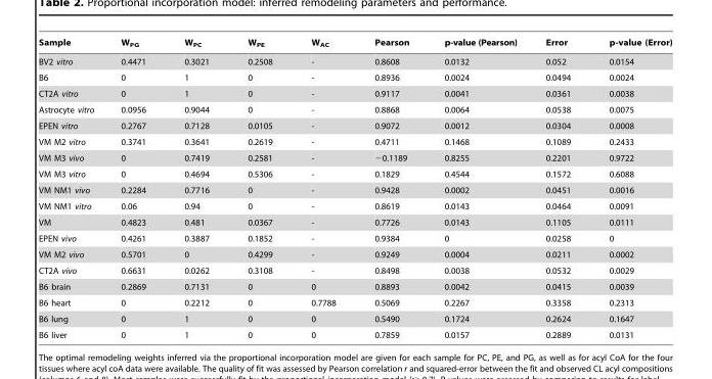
<table><thead><tr><td>Sample</td><td>W<sub>PG</sub></td><td>W<sub>PC</sub></td><td>W<sub>PE</sub></td><td>W<sub>AC</sub></td><td>Pearson</td><td>p-value (Pearson)</td><td>Error</td><td>p-value (Error)</td></tr></thead><tbody><tr><td>BV2 vitro</td><td>0.4471</td><td>0.3021</td><td>0.2508</td><td>-</td><td>0.8608</td><td>0.0132</td><td>0.052</td><td>0.0154</td></tr><tr><td>B6</td><td>0</td><td>1</td><td>0</td><td>-</td><td>0.8936</td><td>0.0024</td><td>0.0494</td><td>0.0024</td></tr><tr><td>CT2A vitro</td><td>0</td><td>1</td><td>0</td><td>-</td><td>0.9117</td><td>0.0041</td><td>0.0361</td><td>0.0038</td></tr><tr><td>Astrocyte vitro</td><td>0.0956</td><td>0.9044</td><td>0</td><td>-</td><td>0.8868</td><td>0.0064</td><td>0.0538</td><td>0.0075</td></tr><tr><td>EPEN vitro</td><td>0.2767</td><td>0.7128</td><td>0.0105</td><td>-</td><td>0.9072</td><td>0.0012</td><td>0.0304</td><td>0.0008</td></tr><tr><td>VM M2 vitro</td><td>0.3741</td><td>0.3641</td><td>0.2619</td><td>-</td><td>0.4711</td><td>0.1468</td><td>0.1089</td><td>0.2433</td></tr><tr><td>VM M3 vivo</td><td>0</td><td>0.7419</td><td>0.2581</td><td>-</td><td>−0.1189</td><td>0.8255</td><td>0.2201</td><td>0.9722</td></tr><tr><td>VM M3 vitro</td><td>0</td><td>0.4694</td><td>0.5306</td><td>-</td><td>0.1829</td><td>0.4544</td><td>0.1572</td><td>0.6088</td></tr><tr><td>VM NM1 vivo</td><td>0.2284</td><td>0.7716</td><td>0</td><td>-</td><td>0.9428</td><td>0.0002</td><td>0.0451</td><td>0.0016</td></tr><tr><td>VM NM1 vitro</td><td>0.06</td><td>0.94</td><td>0</td><td>-</td><td>0.8619</td><td>0.0143</td><td>0.0464</td><td>0.0091</td></tr><tr><td>VM</td><td>0.4823</td><td>0.481</td><td>0.0367</td><td>-</td><td>0.7726</td><td>0.0143</td><td>0.1105</td><td>0.0111</td></tr><tr><td>EPEN vivo</td><td>0.4261</td><td>0.3887</td><td>0.1852</td><td>-</td><td>0.9384</td><td>0</td><td>0.0258</td><td>0</td></tr><tr><td>VM M2 vivo</td><td>0.5701</td><td>0</td><td>0.4299</td><td>-</td><td>0.9249</td><td>0.0004</td><td>0.0211</td><td>0.0002</td></tr><tr><td>CT2A vivo</td><td>0.6631</td><td>0.0262</td><td>0.3108</td><td>-</td><td>0.8498</td><td>0.0038</td><td>0.0532</td><td>0.0029</td></tr><tr><td>B6 brain</td><td>0.2869</td><td>0.7131</td><td>0</td><td>0</td><td>0.8893</td><td>0.0042</td><td>0.0415</td><td>0.0039</td></tr><tr><td>B6 heart</td><td>0</td><td>0.2212</td><td>0</td><td>0.7788</td><td>0.5069</td><td>0.2267</td><td>0.3358</td><td>0.2313</td></tr><tr><td>B6 lung</td><td>0</td><td>1</td><td>0</td><td>0</td><td>0.5490</td><td>0.1724</td><td>0.2624</td><td>0.1647</td></tr><tr><td>B6 liver</td><td>0</td><td>1</td><td>0</td><td>0</td><td>0.7859</td><td>0.0157</td><td>0.2889</td><td>0.0131</td></tr></tbody></table>